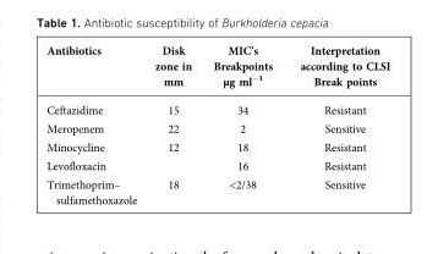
<table><thead><tr><td>Antibiotics</td><td>Disk zone in mm</td><td>MIC’s Breakpoints µg ml<sup>−1</sup></td><td>Interpretation according to CLSI Break points</td></tr></thead><tbody><tr><td>Ceftazidime</td><td>15</td><td>34</td><td>Resistant</td></tr><tr><td>Meropenem</td><td>22</td><td>2</td><td>Sensitive</td></tr><tr><td>Minocycline</td><td>12</td><td>18</td><td>Resistant</td></tr><tr><td>Levofloxacin</td><td></td><td>16</td><td>Resistant</td></tr><tr><td>Trimethoprim– sulfamethoxazole</td><td>18</td><td>&lt;2/38</td><td>Sensitive</td></tr></tbody></table>